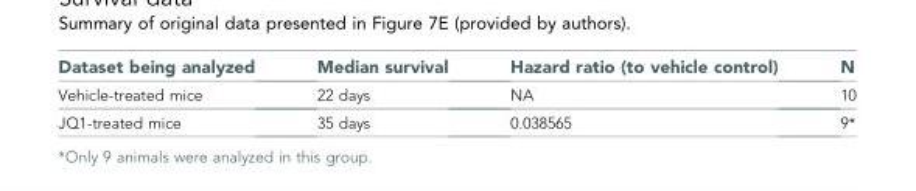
<table><thead><tr><td>Dataset being analyzed</td><td>Median survival</td><td>Hazard ratio (to vehicle control)</td><td>N</td></tr></thead><tbody><tr><td>Vehicle-treated mice</td><td>22 days</td><td>NA</td><td>10</td></tr><tr><td>JQ1-treated mice</td><td>35 days</td><td>0.038565</td><td>9*</td></tr></tbody></table>